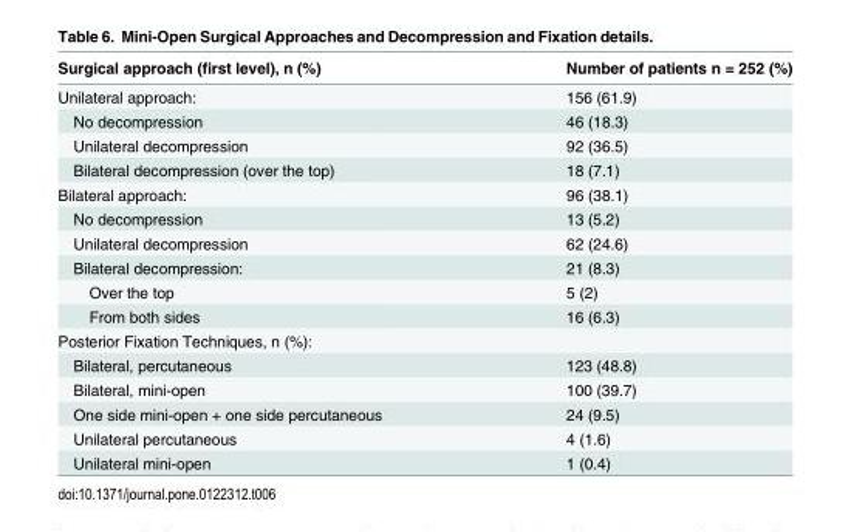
<table><thead><tr><td>Surgical approach (first level), n (%)</td><td>Number of patients n = 252 (%)</td></tr></thead><tbody><tr><td>Unilateral approach:</td><td>156 (61.9)</td></tr><tr><td>No decompression</td><td>46 (18.3)</td></tr><tr><td>Unilateral decompression</td><td>92 (36.5)</td></tr><tr><td>Bilateral decompression (over the top)</td><td>18 (7.1)</td></tr><tr><td>Bilateral approach:</td><td>96 (38.1)</td></tr><tr><td>No decompression</td><td>13 (5.2)</td></tr><tr><td>Unilateral decompression</td><td>62 (24.6)</td></tr><tr><td>Bilateral decompression:</td><td>21 (8.3)</td></tr><tr><td>Over the top</td><td>5 (2)</td></tr><tr><td>From both sides</td><td>16 (6.3)</td></tr><tr><td colspan="2">Posterior Fixation Techniques, n (%):</td></tr><tr><td>Bilateral, percutaneous</td><td>123 (48.8)</td></tr><tr><td>Bilateral, mini-open</td><td>100 (39.7)</td></tr><tr><td>One side mini-open + one side percutaneous</td><td>24 (9.5)</td></tr><tr><td>Unilateral percutaneous</td><td>4 (1.6)</td></tr><tr><td>Unilateral mini-open</td><td>1 (0.4)</td></tr></tbody></table>